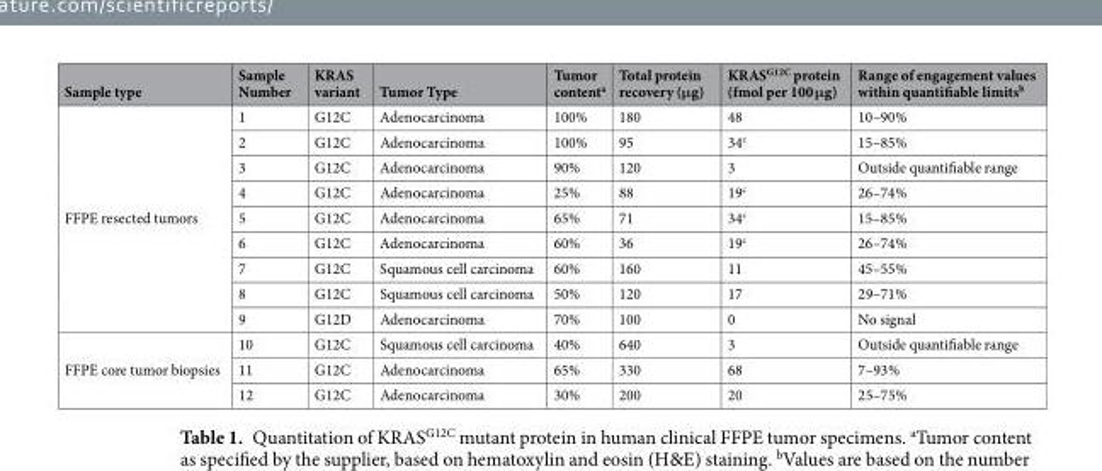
<table><thead><tr><td>Sample type</td><td>Sample Number</td><td>KRAS variant</td><td>Tumor Type</td><td>Tumor content<sup>a</sup></td><td>Total protein recovery (μg)</td><td>KRAS<sup>G12C</sup> protein (fmol per 100 μg)</td><td>Range of engagement values within quantifiable limits<sup>b</sup></td></tr></thead><tbody><tr><td rowspan="9">FFPE resected tumors</td><td>1</td><td>G12C</td><td>Adenocarcinoma</td><td>100%</td><td>180</td><td>48</td><td>10–90%</td></tr><tr><td>2</td><td>G12C</td><td>Adenocarcinoma</td><td>100%</td><td>95</td><td>34<sup>c</sup></td><td>15–85%</td></tr><tr><td>3</td><td>G12C</td><td>Adenocarcinoma</td><td>90%</td><td>120</td><td>3</td><td>Outside quantifiable range</td></tr><tr><td>4</td><td>G12C</td><td>Adenocarcinoma</td><td>25%</td><td>88</td><td>19<sup>c</sup></td><td>26–74%</td></tr><tr><td>5</td><td>G12C</td><td>Adenocarcinoma</td><td>65%</td><td>71</td><td>34<sup>c</sup></td><td>15–85%</td></tr><tr><td>6</td><td>G12C</td><td>Adenocarcinoma</td><td>60%</td><td>36</td><td>19<sup>c</sup></td><td>26–74%</td></tr><tr><td>7</td><td>G12C</td><td>Squamous cell carcinoma</td><td>60%</td><td>160</td><td>11</td><td>45–55%</td></tr><tr><td>8</td><td>G12C</td><td>Squamous cell carcinoma</td><td>50%</td><td>120</td><td>17</td><td>29–71%</td></tr><tr><td>9</td><td>G12D</td><td>Adenocarcinoma</td><td>70%</td><td>100</td><td>0</td><td>No signal</td></tr><tr><td rowspan="3">FFPE core tumor biopsies</td><td>10</td><td>G12C</td><td>Squamous cell carcinoma</td><td>40%</td><td>640</td><td>3</td><td>Outside quantifiable range</td></tr><tr><td>11</td><td>G12C</td><td>Adenocarcinoma</td><td>65%</td><td>330</td><td>68</td><td>7–93%</td></tr><tr><td>12</td><td>G12C</td><td>Adenocarcinoma</td><td>30%</td><td>200</td><td>20</td><td>25–75%</td></tr></tbody></table>